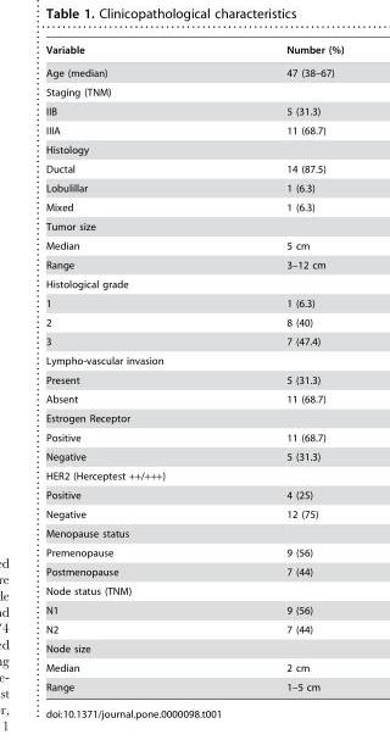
<table><thead><tr><td>Variable</td><td>Number (%)</td></tr></thead><tbody><tr><td>Age (median)</td><td>47 (38–67)</td></tr><tr><td colspan="2">Staging (TNM)</td></tr><tr><td>IIB</td><td>5 (31.3)</td></tr><tr><td>IIIA</td><td>11 (68.7)</td></tr><tr><td colspan="2">Histology</td></tr><tr><td>Ductal</td><td>14 (87.5)</td></tr><tr><td>Lobulillar</td><td>1 (6.3)</td></tr><tr><td>Mixed</td><td>1 (6.3)</td></tr><tr><td colspan="2">Tumor size</td></tr><tr><td>Median</td><td>5 cm</td></tr><tr><td>Range</td><td>3–12 cm</td></tr><tr><td colspan="2">Histological grade</td></tr><tr><td>1</td><td>1 (6.3)</td></tr><tr><td>2</td><td>8 (40)</td></tr><tr><td>3</td><td>7 (47.4)</td></tr><tr><td colspan="2">Lympho-vascular invasion</td></tr><tr><td>Present</td><td>5 (31.3)</td></tr><tr><td>Absent</td><td>11 (68.7)</td></tr><tr><td colspan="2">Estrogen Receptor</td></tr><tr><td>Positive</td><td>11 (68.7)</td></tr><tr><td>Negative</td><td>5 (31.3)</td></tr><tr><td colspan="2">HER2 (Herceptest ++/+++)</td></tr><tr><td>Positive</td><td>4 (25)</td></tr><tr><td>Negative</td><td>12 (75)</td></tr><tr><td colspan="2">Menopause status</td></tr><tr><td>Premenopause</td><td>9 (56)</td></tr><tr><td>Postmenopause</td><td>7 (44)</td></tr><tr><td colspan="2">Node status (TNM)</td></tr><tr><td>N1</td><td>9 (56)</td></tr><tr><td>N2</td><td>7 (44)</td></tr><tr><td colspan="2">Node size</td></tr><tr><td>Median</td><td>2 cm</td></tr><tr><td>Range</td><td>1–5 cm</td></tr></tbody></table>